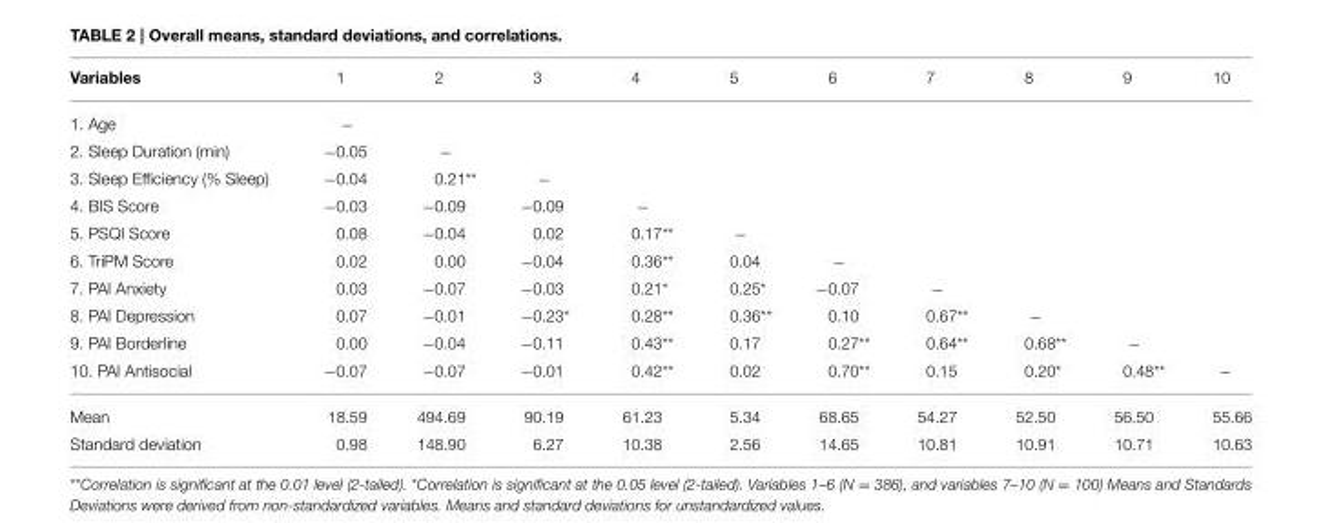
<table><thead><tr><td>Variables</td><td>1</td><td>2</td><td>3</td><td>4</td><td>5</td><td>6</td><td>7</td><td>8</td><td>9</td><td>10</td></tr></thead><tbody><tr><td>1. Age</td><td>−</td><td></td><td></td><td></td><td></td><td></td><td></td><td></td><td></td><td></td></tr><tr><td>2. Sleep Duration (min)</td><td>−0.05</td><td>−</td><td></td><td></td><td></td><td></td><td></td><td></td><td></td><td></td></tr><tr><td>3. Sleep Efficiency (% Sleep)</td><td>−0.04</td><td>0.21**</td><td>−</td><td></td><td></td><td></td><td></td><td></td><td></td><td></td></tr><tr><td>4. BIS Score</td><td>−0.03</td><td>−0.09</td><td>−0.09</td><td>−</td><td></td><td></td><td></td><td></td><td></td><td></td></tr><tr><td>5. PSQI Score</td><td>0.08</td><td>−0.04</td><td>0.02</td><td>0.17**</td><td>−</td><td></td><td></td><td></td><td></td><td></td></tr><tr><td>6. TriPM Score</td><td>0.02</td><td>0.00</td><td>−0.04</td><td>0.36**</td><td>0.04</td><td>−</td><td></td><td></td><td></td><td></td></tr><tr><td>7. PAI Anxiety</td><td>0.03</td><td>−0.07</td><td>−0.03</td><td>0.21*</td><td>0.25*</td><td>−0.07</td><td>−</td><td></td><td></td><td></td></tr><tr><td>8. PAI Depression</td><td>0.07</td><td>−0.01</td><td>−0.23*</td><td>0.28**</td><td>0.36**</td><td>0.10</td><td>0.67**</td><td>−</td><td></td><td></td></tr><tr><td>9. PAI Borderline</td><td>0.00</td><td>−0.04</td><td>−0.11</td><td>0.43**</td><td>0.17</td><td>0.27**</td><td>0.64**</td><td>0.68**</td><td>−</td><td></td></tr><tr><td>10. PAI Antisocial</td><td>−0.07</td><td>−0.07</td><td>−0.01</td><td>0.42**</td><td>0.02</td><td>0.70**</td><td>0.15</td><td>0.20*</td><td>0.48**</td><td>−</td></tr><tr><td>Mean</td><td>18.59</td><td>494.69</td><td>90.19</td><td>61.23</td><td>5.34</td><td>68.65</td><td>54.27</td><td>52.50</td><td>56.50</td><td>55.66</td></tr><tr><td>Standard deviation</td><td>0.98</td><td>148.90</td><td>6.27</td><td>10.38</td><td>2.56</td><td>14.65</td><td>10.81</td><td>10.91</td><td>10.71</td><td>10.63</td></tr></tbody></table>